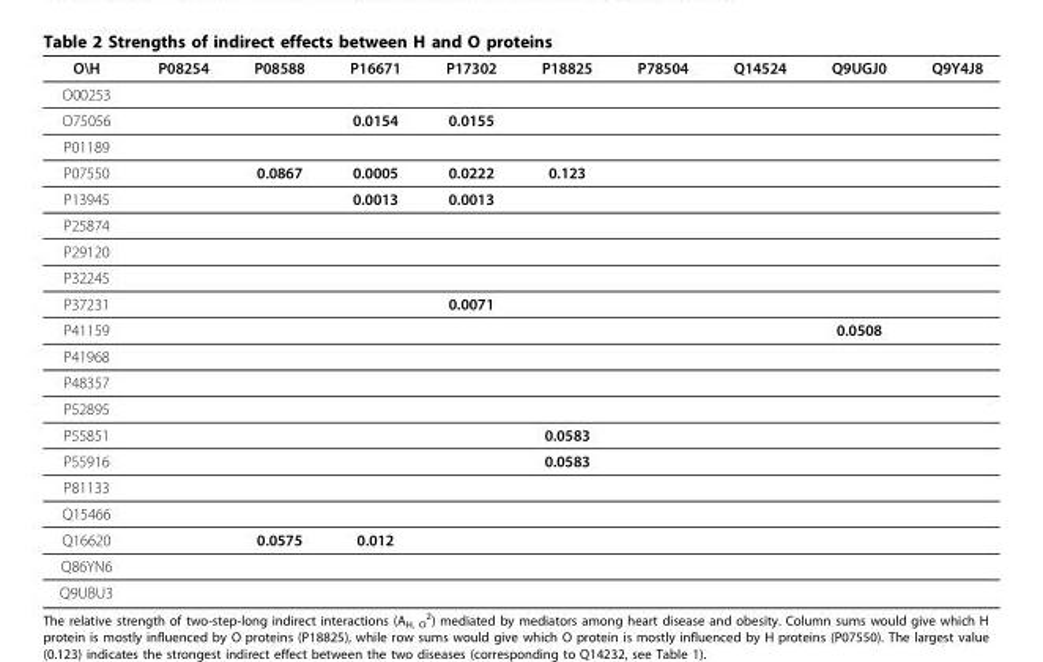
<table><thead><tr><td>O\H</td><td>P08254</td><td>P08588</td><td>P16671</td><td>P17302</td><td>P18825</td><td>P78504</td><td>Q14524</td><td>Q9UGJ0</td><td>Q9Y4J8</td></tr></thead><tbody><tr><td colspan="10">O00253</td></tr><tr><td>O75056</td><td></td><td></td><td>0.0154</td><td>0.0155</td><td></td><td></td><td></td><td></td><td></td></tr><tr><td colspan="10">P01189</td></tr><tr><td>P07550</td><td></td><td>0.0867</td><td>0.0005</td><td>0.0222</td><td>0.123</td><td></td><td></td><td></td><td></td></tr><tr><td>P13945</td><td></td><td></td><td>0.0013</td><td>0.0013</td><td></td><td></td><td></td><td></td><td></td></tr><tr><td colspan="10">P25874</td></tr><tr><td colspan="10">P29120</td></tr><tr><td colspan="10">P32245</td></tr><tr><td>P37231</td><td></td><td></td><td></td><td>0.0071</td><td></td><td></td><td></td><td></td><td></td></tr><tr><td>P41159</td><td></td><td></td><td></td><td></td><td></td><td></td><td></td><td>0.0508</td><td></td></tr><tr><td colspan="10">P41968</td></tr><tr><td colspan="10">P48357</td></tr><tr><td colspan="10">P52895</td></tr><tr><td>P55851</td><td></td><td></td><td></td><td></td><td>0.0583</td><td></td><td></td><td></td><td></td></tr><tr><td>P55916</td><td></td><td></td><td></td><td></td><td>0.0583</td><td></td><td></td><td></td><td></td></tr><tr><td colspan="10">P81133</td></tr><tr><td colspan="10">Q15466</td></tr><tr><td>Q16620</td><td></td><td>0.0575</td><td>0.012</td><td></td><td></td><td></td><td></td><td></td><td></td></tr><tr><td colspan="10">Q86YN6</td></tr><tr><td>Q9UBU3</td><td></td><td></td><td></td><td></td><td></td><td></td><td></td><td></td><td></td></tr></tbody></table>